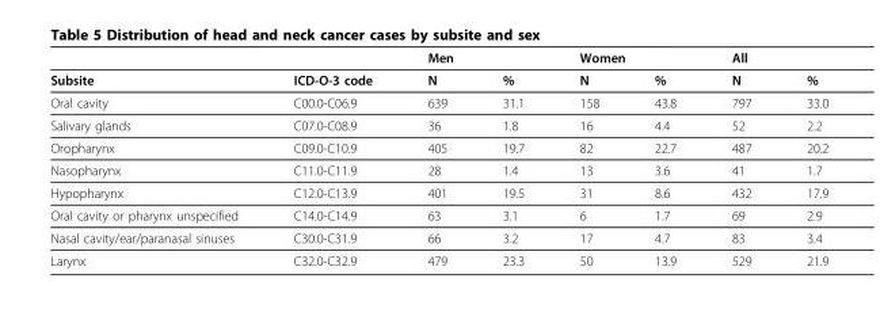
<table><thead><tr><td rowspan="2">Subsite</td><td rowspan="2">ICD-O-3 code</td><td colspan="2">Men</td><td colspan="2">Women</td><td colspan="2">All</td></tr><tr><td>N</td><td>%</td><td>N</td><td>%</td><td>N</td><td>%</td></tr></thead><tbody><tr><td>Oral cavity</td><td>C00.0-C06.9</td><td>639</td><td>31.1</td><td>158</td><td>43.8</td><td>797</td><td>33.0</td></tr><tr><td>Salivary glands</td><td>C07.0-C08.9</td><td>36</td><td>1.8</td><td>16</td><td>4.4</td><td>52</td><td>2.2</td></tr><tr><td>Oropharynx</td><td>C09.0-C10.9</td><td>405</td><td>19.7</td><td>82</td><td>22.7</td><td>487</td><td>20.2</td></tr><tr><td>Nasopharynx</td><td>C11.0-C11.9</td><td>28</td><td>1.4</td><td>13</td><td>3.6</td><td>41</td><td>1.7</td></tr><tr><td>Hypopharynx</td><td>C12.0-C13.9</td><td>401</td><td>19.5</td><td>31</td><td>8.6</td><td>432</td><td>17.9</td></tr><tr><td>Oral cavity or pharynx unspecified</td><td>C14.0-C14.9</td><td>63</td><td>3.1</td><td>6</td><td>1.7</td><td>69</td><td>2.9</td></tr><tr><td>Nasal cavity/ear/paranasal sinuses</td><td>C30.0-C31.9</td><td>66</td><td>3.2</td><td>17</td><td>4.7</td><td>83</td><td>3.4</td></tr><tr><td>Larynx</td><td>C32.0-C32.9</td><td>479</td><td>23.3</td><td>50</td><td>13.9</td><td>529</td><td>21.9</td></tr></tbody></table>